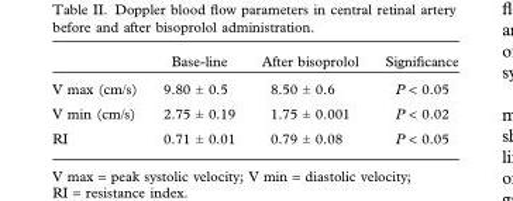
<table><thead><tr><td></td><td>Base-line</td><td>After bisoprolol</td><td>Significance</td></tr></thead><tbody><tr><td>V max (cm/s)</td><td>9.80 ± 0.5</td><td>8.50 ± 0.6</td><td>P &lt; 0.05</td></tr><tr><td>V min (cm/s)</td><td>2.75 ± 0.19</td><td>1.75 ± 0.001</td><td>P &lt; 0.02</td></tr><tr><td>RI</td><td>0.71 ± 0.01</td><td>0.79 ± 0.08</td><td>P &lt; 0.05</td></tr></tbody></table>